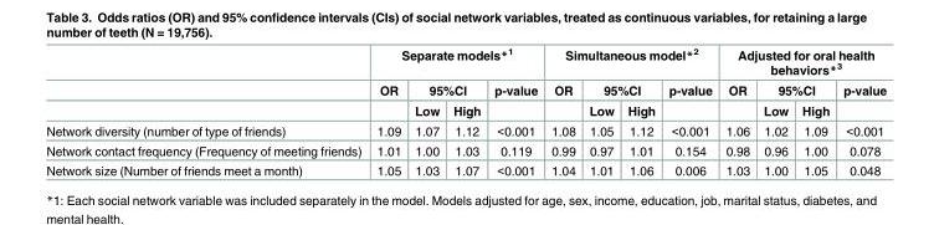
<table><thead><tr><td rowspan="3"></td><td colspan="4">Separate models*<sup>1</sup></td><td colspan="4">Simultaneous model*<sup>2</sup></td><td colspan="4">Adjusted for oral health behaviors*<sup>3</sup></td></tr><tr><td rowspan="2">OR</td><td colspan="2">95%CI</td><td rowspan="2">p-value</td><td rowspan="2">OR</td><td colspan="2">95%CI</td><td rowspan="2">p-value</td><td rowspan="2">OR</td><td colspan="2">95%CI</td><td rowspan="2">p-value</td></tr><tr><td>Low</td><td>High</td><td>Low</td><td>High</td><td>Low</td><td>High</td></tr></thead><tbody><tr><td>Network diversity (number of type of friends)</td><td>1.09</td><td>1.07</td><td>1.12</td><td>&lt;0.001</td><td>1.08</td><td>1.05</td><td>1.12</td><td>&lt;0.001</td><td>1.06</td><td>1.02</td><td>1.09</td><td>&lt;0.001</td></tr><tr><td>Network contact frequency (Frequency of meeting friends)</td><td>1.01</td><td>1.00</td><td>1.03</td><td>0.119</td><td>0.99</td><td>0.97</td><td>1.01</td><td>0.154</td><td>0.98</td><td>0.96</td><td>1.00</td><td>0.078</td></tr><tr><td>Network size (Number of friends meet a month)</td><td>1.05</td><td>1.03</td><td>1.07</td><td>&lt;0.001</td><td>1.04</td><td>1.01</td><td>1.06</td><td>0.006</td><td>1.03</td><td>1.00</td><td>1.05</td><td>0.048</td></tr></tbody></table>